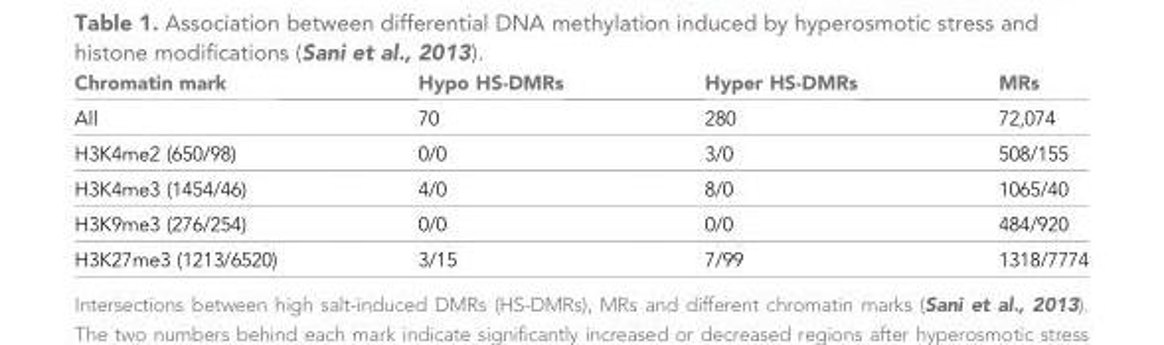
<table><thead><tr><td>Chromatin mark</td><td>Hypo HS-DMRs</td><td>Hyper HS-DMRs</td><td>MRs</td></tr></thead><tbody><tr><td>All</td><td>70</td><td>280</td><td>72,074</td></tr><tr><td>H3K4me2 (650/98)</td><td>0/0</td><td>3/0</td><td>508/155</td></tr><tr><td>H3K4me3 (1454/46)</td><td>4/0</td><td>8/0</td><td>1065/40</td></tr><tr><td>H3K9me3 (276/254)</td><td>0/0</td><td>0/0</td><td>484/920</td></tr><tr><td>H3K27me3 (1213/6520)</td><td>3/15</td><td>7/99</td><td>1318/7774</td></tr></tbody></table>